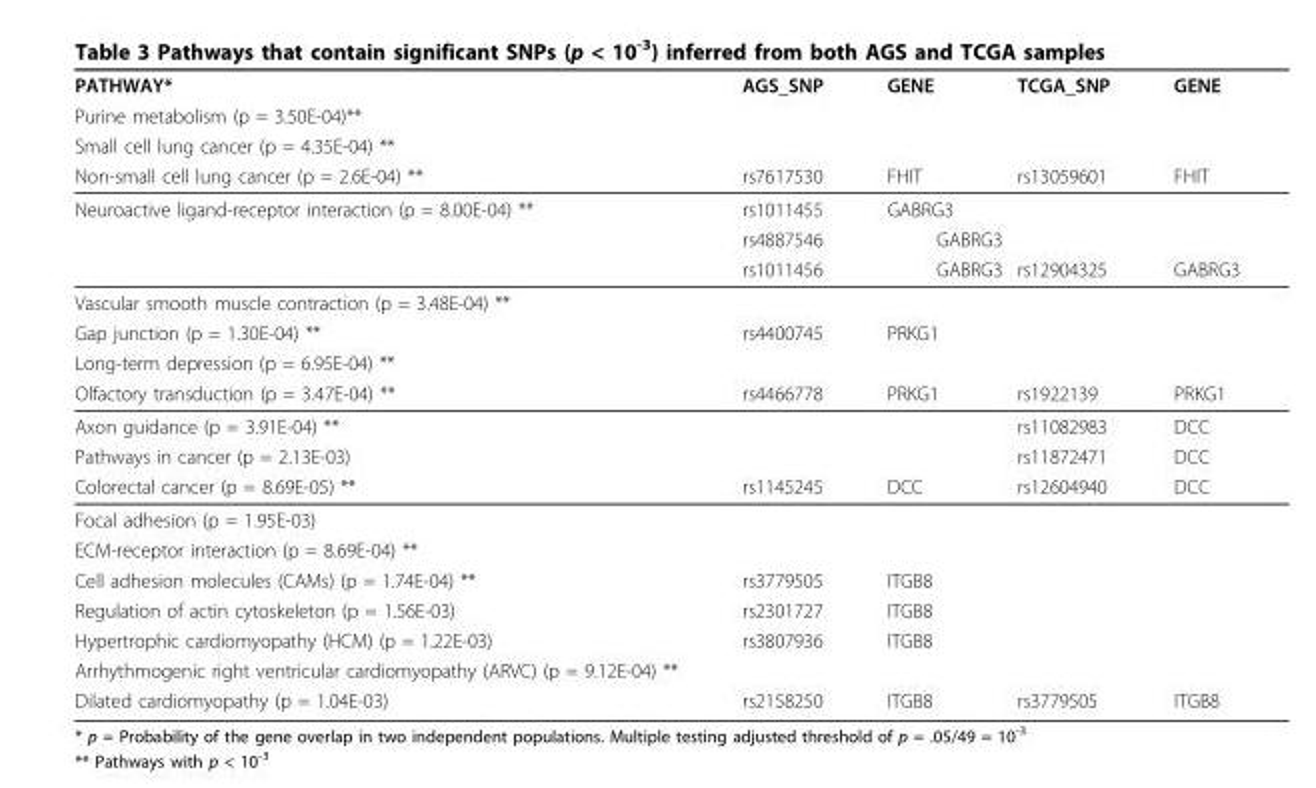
<table><thead><tr><td rowspan="4">PATHWAY* Purine metabolism (p = 3.50E-04)** Small cell lung cancer (p = 4.35E-04) ** Non-small cell lung cancer (p = 2.6E-04) **</td><td rowspan="4">AGS_SNP rs7617530</td><td rowspan="4">GENE FHIT</td><td rowspan="4">TCGA_SNP rs13059601</td><td rowspan="4">GENE FHIT</td></tr><tr></tr><tr></tr><tr></tr></thead><tbody><tr><td rowspan="3">Neuroactive ligand-receptor interaction (p = 8.00E-04) **</td><td>rs1011455</td><td>GABRG3</td><td></td><td></td></tr><tr><td>rs4887546</td><td>GABRG3</td><td></td><td></td></tr><tr><td>rs1011456</td><td>GABRG3</td><td>rs12904325</td><td>GABRG3</td></tr><tr><td colspan="5">Vascular smooth muscle contraction (p = 3.48E-04) **</td></tr><tr><td>Gap junction (p = 1.30E-04) **</td><td>rs4400745</td><td>PRKG1</td><td></td><td></td></tr><tr><td colspan="5">Long-term depression (p = 6.95E-04) **</td></tr><tr><td>Olfactory transduction (p = 3.47E-04) **</td><td>rs4466778</td><td>PRKG1</td><td>rs1922139</td><td>PRKG1</td></tr><tr><td>Axon guidance (p = 3.91E-04) **</td><td></td><td></td><td>rs11082983</td><td>DCC</td></tr><tr><td>Pathways in cancer (p = 2.13E-03)</td><td></td><td></td><td>rs11872471</td><td>DCC</td></tr><tr><td>Colorectal cancer (p = 8.69E-05) **</td><td>rs1145245</td><td>DCC</td><td>rs12604940</td><td>DCC</td></tr><tr><td colspan="5">Focal adhesion (p = 1.95E-03)</td></tr><tr><td colspan="5">ECM-receptor interaction (p = 8.69E-04) **</td></tr><tr><td>Cell adhesion molecules (CAMs) (p = 1.74E-04) **</td><td>rs3779505</td><td>ITGB8</td><td></td><td></td></tr><tr><td>Regulation of actin cytoskeleton (p = 1.56E-03)</td><td>rs2301727</td><td>ITGB8</td><td></td><td></td></tr><tr><td>Hypertrophic cardiomyopathy (HCM) (p = 1.22E-03)</td><td>rs3807936</td><td>ITGB8</td><td></td><td></td></tr><tr><td colspan="5">Arrhythmogenic right ventricular cardiomyopathy (ARVC) (p = 9.12E-04) **</td></tr><tr><td>Dilated cardiomyopathy (p = 1.04E-03)</td><td>rs2158250</td><td>ITGB8</td><td>rs3779505</td><td>ITGB8</td></tr></tbody></table>